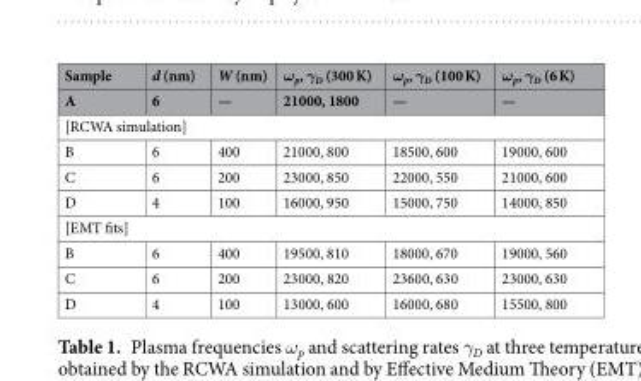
<table><thead><tr><td rowspan="2">Sample A</td><td rowspan="2">d (nm) 6</td><td rowspan="2">W (nm) —</td><td rowspan="2">ω<sub>p</sub>, γ<sub>D</sub> (300 K) 21000, 1800</td><td rowspan="2">ω<sub>p</sub>, γ<sub>D</sub> (100 K) —</td><td rowspan="2">ω<sub>p</sub>, γ<sub>D</sub> (6 K) —</td></tr><tr></tr></thead><tbody><tr><td colspan="6">[RCWA simulation]</td></tr><tr><td>B</td><td>6</td><td>400</td><td>21000, 800</td><td>18500, 600</td><td>19000, 600</td></tr><tr><td>C</td><td>6</td><td>200</td><td>23000, 850</td><td>22000, 550</td><td>21000, 600</td></tr><tr><td>D</td><td>4</td><td>100</td><td>16000, 950</td><td>15000, 750</td><td>14000, 850</td></tr><tr><td colspan="6">[EMT fits]</td></tr><tr><td>B</td><td>6</td><td>400</td><td>19500, 810</td><td>18000, 670</td><td>19000, 560</td></tr><tr><td>C</td><td>6</td><td>200</td><td>23000, 820</td><td>23600, 630</td><td>23000, 630</td></tr><tr><td>D</td><td>4</td><td>100</td><td>13000, 600</td><td>16000, 680</td><td>15500, 800</td></tr></tbody></table>